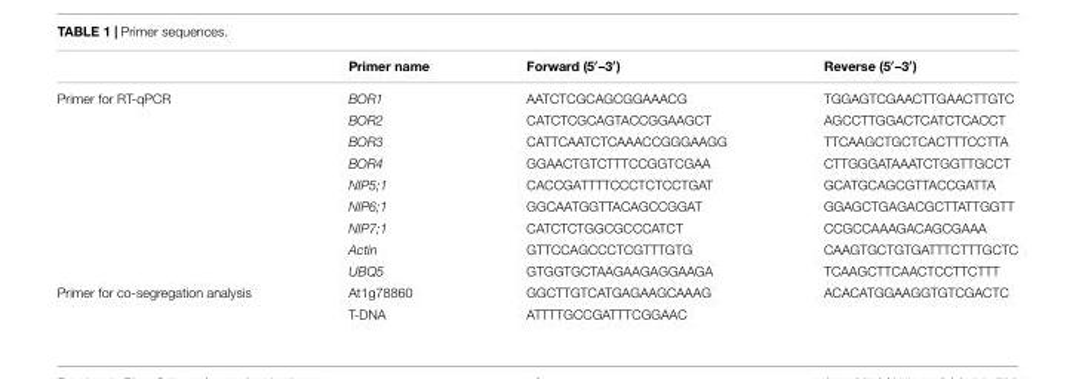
<table><thead><tr><td></td><td>Primer name</td><td>Forward (5′–3′)</td><td>Reverse (5′–3′)</td></tr></thead><tbody><tr><td rowspan="9">Primer for RT-qPCR</td><td>BOR1</td><td>AATCTCGCAGCGGAAACG</td><td>TGGAGTCGAACTTGAACTTGTC</td></tr><tr><td>BOR2</td><td>CATCTCGCAGTACCGGAAGCT</td><td>AGCCTTGGACTCATCTCACCT</td></tr><tr><td>BOR3</td><td>CATTCAATCTCAAACCGGGAAGG</td><td>TTCAAGCTGCTCACTTTCCTTA</td></tr><tr><td>BOR4</td><td>GGAACTGTCTTTCCGGTCGAA</td><td>CTTGGGATAAATCTGGTTGCCT</td></tr><tr><td>NIP5;1</td><td>CACCGATTTTCCCTCTCCTGAT</td><td>GCATGCAGCGTTACCGATTA</td></tr><tr><td>NIP6;1</td><td>GGCAATGGTTACAGCCGGAT</td><td>GGAGCTGAGACGCTTATTGGTT</td></tr><tr><td>NIP7;1</td><td>CATCTCTGGCGCCCATCT</td><td>CCGCCAAAGACAGCGAAA</td></tr><tr><td>Actin</td><td>GTTCCAGCCCTCGTTTGTG</td><td>CAAGTGCTGTGATTTCTTTGCTC</td></tr><tr><td>UBQ5</td><td>GTGGTGCTAAGAAGAGGAAGA</td><td>TCAAGCTTCAACTCCTTCTTT</td></tr><tr><td rowspan="2">Primer for co-segregation analysis</td><td>At1g78860</td><td>GGCTTGTCATGAGAAGCAAAG</td><td>ACACATGGAAGGTGTCGACTC</td></tr><tr><td>T-DNA</td><td colspan="2">ATTTTGCCGATTTCGGAAC</td></tr></tbody></table>